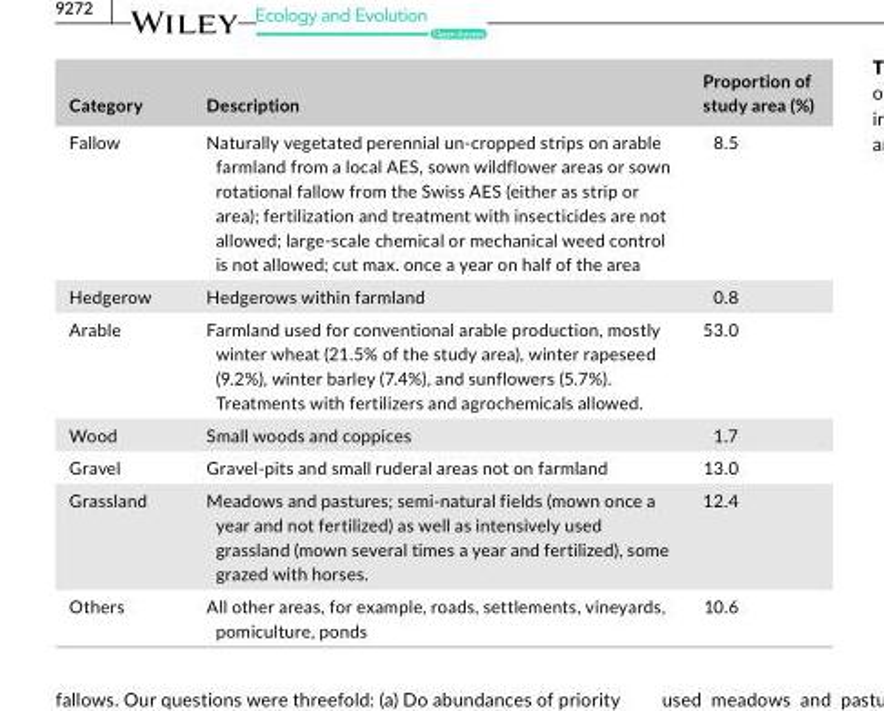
<table><thead><tr><td>Category</td><td>Description</td><td>Proportion of study area (%)</td></tr></thead><tbody><tr><td>Fallow</td><td>Naturally vegetated perennial un- cropped strips on arable farmland from a local AES, sown wildflower areas or sown rotational fallow from the Swiss AES (either as strip or area); fertilization and treatment with insecticides are not allowed; large- scale chemical or mechanical weed control is not allowed; cut max. once a year on half of the area</td><td>8.5</td></tr><tr><td>Hedgerow</td><td>Hedgerows within farmland</td><td>0.8</td></tr><tr><td>Arable</td><td>Farmland used for conventional arable production, mostly winter wheat (21.5% of the study area), winter rapeseed (9.2%), winter barley (7.4%), and sunflowers (5.7%). Treatments with fertilizers and agrochemicals allowed.</td><td>53.0</td></tr><tr><td>Wood</td><td>Small woods and coppices</td><td>1.7</td></tr><tr><td>Gravel</td><td>Gravel- pits and small ruderal areas not on farmland</td><td>13.0</td></tr><tr><td>Grassland</td><td>Meadows and pastures; semi- natural fields (mown once a year and not fertilized) as well as intensively used grassland (mown several times a year and fertilized), some grazed with horses.</td><td>12.4</td></tr><tr><td>Others</td><td>All other areas, for example, roads, settlements, vineyards, pomiculture, ponds</td><td>10.6</td></tr></tbody></table>